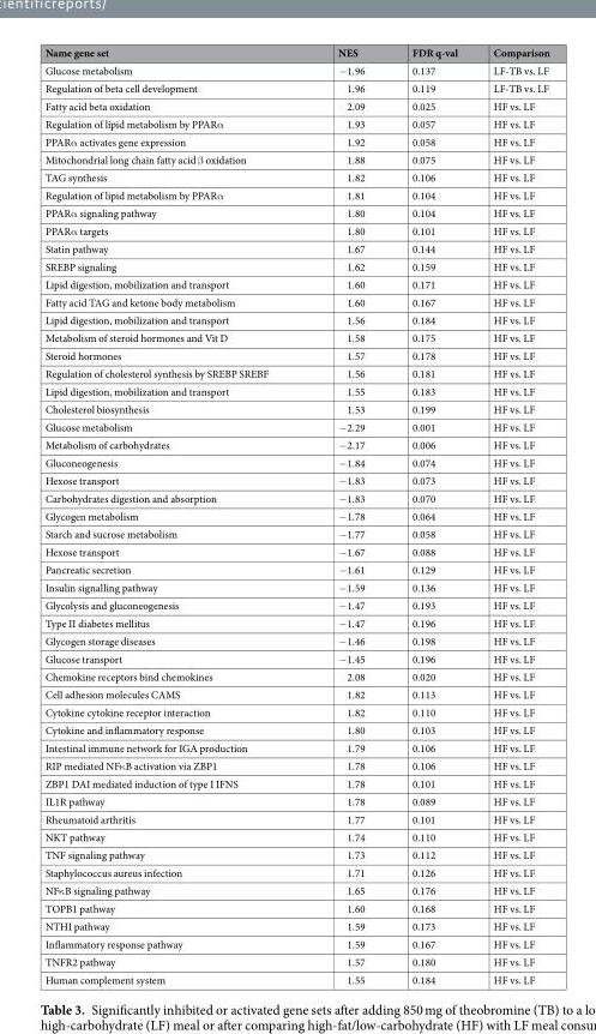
<table><thead><tr><td>Name gene set</td><td>NES</td><td>FDR q-val</td><td>Comparison</td></tr></thead><tbody><tr><td>Glucose metabolism</td><td>−1.96</td><td>0.137</td><td>LF-TB vs. LF</td></tr><tr><td>Regulation of beta cell development</td><td>1.96</td><td>0.119</td><td>LF-TB vs. LF</td></tr><tr><td>Fatty acid beta oxidation</td><td>2.09</td><td>0.025</td><td>HF vs. LF</td></tr><tr><td>Regulation of lipid metabolism by PPARα</td><td>1.93</td><td>0.057</td><td>HF vs. LF</td></tr><tr><td>PPARα activates gene expression</td><td>1.92</td><td>0.058</td><td>HF vs. LF</td></tr><tr><td>Mitochondrial long chain fatty acid β oxidation</td><td>1.88</td><td>0.075</td><td>HF vs. LF</td></tr><tr><td>TAG synthesis</td><td>1.82</td><td>0.106</td><td>HF vs. LF</td></tr><tr><td>Regulation of lipid metabolism by PPARα</td><td>1.81</td><td>0.104</td><td>HF vs. LF</td></tr><tr><td>PPARα signaling pathway</td><td>1.80</td><td>0.104</td><td>HF vs. LF</td></tr><tr><td>PPARα targets</td><td>1.80</td><td>0.101</td><td>HF vs. LF</td></tr><tr><td>Statin pathway</td><td>1.67</td><td>0.144</td><td>HF vs. LF</td></tr><tr><td>SREBP signaling</td><td>1.62</td><td>0.159</td><td>HF vs. LF</td></tr><tr><td>Lipid digestion, mobilization and transport</td><td>1.60</td><td>0.171</td><td>HF vs. LF</td></tr><tr><td>Fatty acid TAG and ketone body metabolism</td><td>1.60</td><td>0.167</td><td>HF vs. LF</td></tr><tr><td>Lipid digestion, mobilization and transport</td><td>1.56</td><td>0.184</td><td>HF vs. LF</td></tr><tr><td>Metabolism of steroid hormones and Vit D</td><td>1.58</td><td>0.175</td><td>HF vs. LF</td></tr><tr><td>Steroid hormones</td><td>1.57</td><td>0.178</td><td>HF vs. LF</td></tr><tr><td>Regulation of cholesterol synthesis by SREBP SREBF</td><td>1.56</td><td>0.181</td><td>HF vs. LF</td></tr><tr><td>Lipid digestion, mobilization and transport</td><td>1.55</td><td>0.183</td><td>HF vs. LF</td></tr><tr><td>Cholesterol biosynthesis</td><td>1.53</td><td>0.199</td><td>HF vs. LF</td></tr><tr><td>Glucose metabolism</td><td>−2.29</td><td>0.001</td><td>HF vs. LF</td></tr><tr><td>Metabolism of carbohydrates</td><td>−2.17</td><td>0.006</td><td>HF vs. LF</td></tr><tr><td>Gluconeogenesis</td><td>−1.84</td><td>0.074</td><td>HF vs. LF</td></tr><tr><td>Hexose transport</td><td>−1.83</td><td>0.073</td><td>HF vs. LF</td></tr><tr><td>Carbohydrates digestion and absorption</td><td>−1.83</td><td>0.070</td><td>HF vs. LF</td></tr><tr><td>Glycogen metabolism</td><td>−1.78</td><td>0.064</td><td>HF vs. LF</td></tr><tr><td>Starch and sucrose metabolism</td><td>−1.77</td><td>0.058</td><td>HF vs. LF</td></tr><tr><td>Hexose transport</td><td>−1.67</td><td>0.088</td><td>HF vs. LF</td></tr><tr><td>Pancreatic secretion</td><td>−1.61</td><td>0.129</td><td>HF vs. LF</td></tr><tr><td>Insulin signalling pathway</td><td>−1.59</td><td>0.136</td><td>HF vs. LF</td></tr><tr><td>Glycolysis and gluconeogenesis</td><td>−1.47</td><td>0.193</td><td>HF vs. LF</td></tr><tr><td>Type II diabetes mellitus</td><td>−1.47</td><td>0.196</td><td>HF vs. LF</td></tr><tr><td>Glycogen storage diseases</td><td>−1.46</td><td>0.198</td><td>HF vs. LF</td></tr><tr><td>Glucose transport</td><td>−1.45</td><td>0.196</td><td>HF vs. LF</td></tr><tr><td>Chemokine receptors bind chemokines</td><td>2.08</td><td>0.020</td><td>HF vs. LF</td></tr><tr><td>Cell adhesion molecules CAMS</td><td>1.82</td><td>0.113</td><td>HF vs. LF</td></tr><tr><td>Cytokine cytokine receptor interaction</td><td>1.82</td><td>0.110</td><td>HF vs. LF</td></tr><tr><td>Cytokine and inflammatory response</td><td>1.80</td><td>0.103</td><td>HF vs. LF</td></tr><tr><td>Intestinal immune network for IGA production</td><td>1.79</td><td>0.106</td><td>HF vs. LF</td></tr><tr><td>RIP mediated NFκB activation via ZBP1</td><td>1.78</td><td>0.106</td><td>HF vs. LF</td></tr><tr><td>ZBP1 DAI mediated induction of type I IFNS</td><td>1.78</td><td>0.101</td><td>HF vs. LF</td></tr><tr><td>IL1R pathway</td><td>1.78</td><td>0.089</td><td>HF vs. LF</td></tr><tr><td>Rheumatoid arthritis</td><td>1.77</td><td>0.101</td><td>HF vs. LF</td></tr><tr><td>NKT pathway</td><td>1.74</td><td>0.110</td><td>HF vs. LF</td></tr><tr><td>TNF signaling pathway</td><td>1.73</td><td>0.112</td><td>HF vs. LF</td></tr><tr><td>Staphylococcus aureus infection</td><td>1.71</td><td>0.126</td><td>HF vs. LF</td></tr><tr><td>NFκB signaling pathway</td><td>1.65</td><td>0.176</td><td>HF vs. LF</td></tr><tr><td>TOPB1 pathway</td><td>1.60</td><td>0.168</td><td>HF vs. LF</td></tr><tr><td>NTHI pathway</td><td>1.59</td><td>0.173</td><td>HF vs. LF</td></tr><tr><td>Inflammatory response pathway</td><td>1.59</td><td>0.167</td><td>HF vs. LF</td></tr><tr><td>TNFR2 pathway</td><td>1.57</td><td>0.180</td><td>HF vs. LF</td></tr><tr><td>Human complement system</td><td>1.55</td><td>0.184</td><td>HF vs. LF</td></tr></tbody></table>